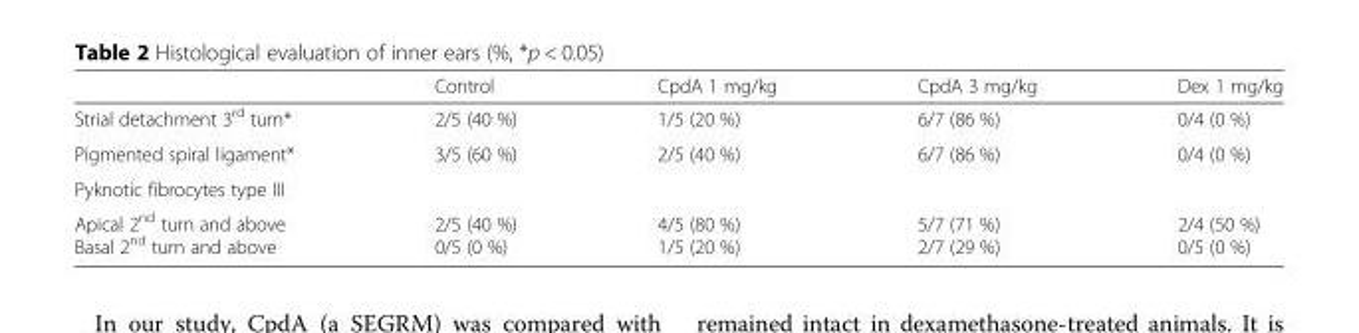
<table><thead><tr><td></td><td>Control</td><td>CpdA 1 mg/kg</td><td>CpdA 3 mg/kg</td><td>Dex 1 mg/kg</td></tr></thead><tbody><tr><td>Strial detachment 3<sup>rd</sup> turn*</td><td>2/5 (40 %)</td><td>1/5 (20 %)</td><td>6/7 (86 %)</td><td>0/4 (0 %)</td></tr><tr><td>Pigmented spiral ligament*</td><td>3/5 (60 %)</td><td>2/5 (40 %)</td><td>6/7 (86 %)</td><td>0/4 (0 %)</td></tr><tr><td colspan="5">Pyknotic fibrocytes type III</td></tr><tr><td>Apical 2<sup>nd</sup> turn and above Basal 2<sup>nd</sup> turn and above</td><td>2/5 (40 %) 0/5 (0 %)</td><td>4/5 (80 %) 1/5 (20 %)</td><td>5/7 (71 %) 2/7 (29 %)</td><td>2/4 (50 %) 0/5 (0 %)</td></tr></tbody></table>